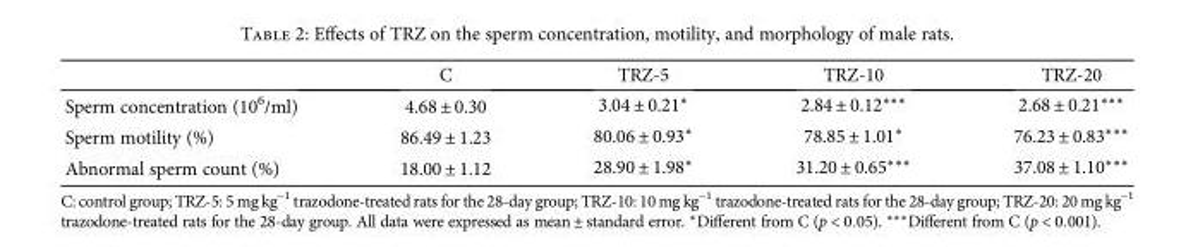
<table><thead><tr><td></td><td>C</td><td>TRZ-5</td><td>TRZ-10</td><td>TRZ-20</td></tr></thead><tbody><tr><td>Sperm concentration (10<sup>6</sup>/ml)</td><td>4.68 ± 0.30</td><td>3.04 ± 0.21∗</td><td>2.84 ± 0.12∗∗∗</td><td>2.68 ± 0.21∗∗∗</td></tr><tr><td>Sperm motility (%)</td><td>86.49 ± 1.23</td><td>80.06 ± 0.93∗</td><td>78.85 ± 1.01∗</td><td>76.23 ± 0.83∗∗∗</td></tr><tr><td>Abnormal sperm count (%)</td><td>18.00 ± 1.12</td><td>28.90 ± 1.98∗</td><td>31.20 ± 0.65∗∗∗</td><td>37.08 ± 1.10∗∗∗</td></tr></tbody></table>